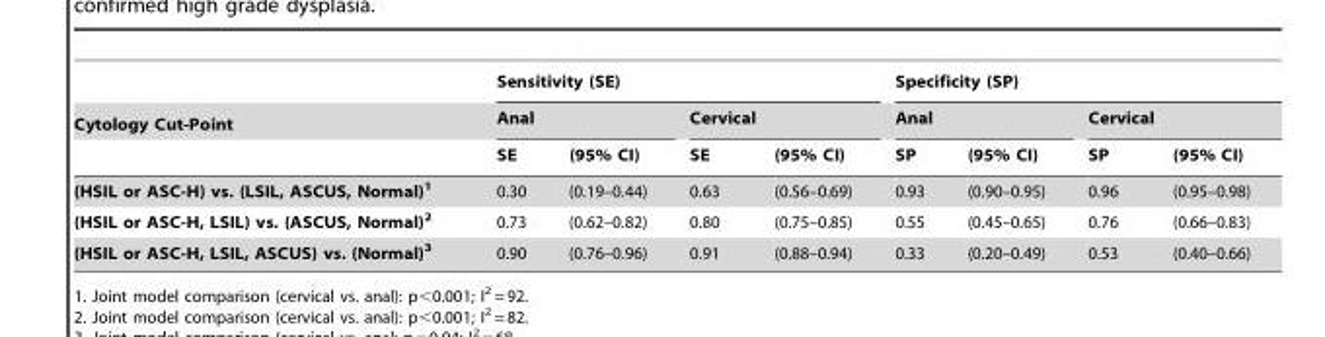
<table><thead><tr><td rowspan="3">Cytology Cut-Point</td><td colspan="4">Sensitivity (SE)</td><td colspan="4">Specificity (SP)</td></tr><tr><td colspan="2">Anal</td><td colspan="2">Cervical</td><td colspan="2">Anal</td><td colspan="2">Cervical</td></tr><tr><td>SE</td><td>(95% CI)</td><td>SE</td><td>(95% CI)</td><td>SP</td><td>(95% CI)</td><td>SP</td><td>(95% CI)</td></tr></thead><tbody><tr><td>(HSIL or ASC-H) vs. (LSIL, ASCUS, Normal)<sup>1</sup></td><td>0.30</td><td>(0.19–0.44)</td><td>0.63</td><td>(0.56–0.69)</td><td>0.93</td><td>(0.90–0.95)</td><td>0.96</td><td>(0.95–0.98)</td></tr><tr><td>(HSIL or ASC-H, LSIL) vs. (ASCUS, Normal)<sup>2</sup></td><td>0.73</td><td>(0.62–0.82)</td><td>0.80</td><td>(0.75–0.85)</td><td>0.55</td><td>(0.45–0.65)</td><td>0.76</td><td>(0.66–0.83)</td></tr><tr><td>(HSIL or ASC-H, LSIL, ASCUS) vs. (Normal)<sup>3</sup></td><td>0.90</td><td>(0.76–0.96)</td><td>0.91</td><td>(0.88–0.94)</td><td>0.33</td><td>(0.20–0.49)</td><td>0.53</td><td>(0.40–0.66)</td></tr></tbody></table>